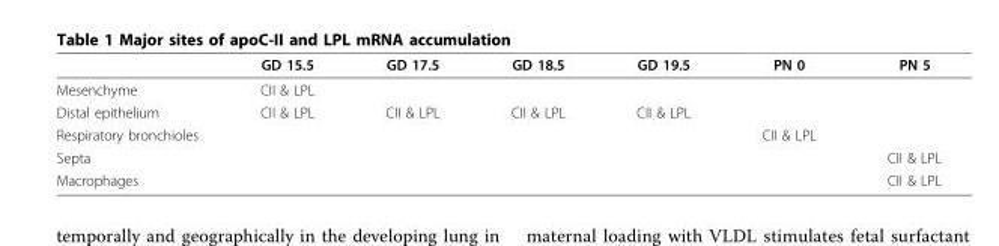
<table><thead><tr><td></td><td>GD 15.5</td><td>GD 17.5</td><td>GD 18.5</td><td>GD 19.5</td><td>PN 0</td><td>PN 5</td></tr></thead><tbody><tr><td>Mesenchyme</td><td>CII &amp; LPL</td><td></td><td></td><td></td><td></td><td></td></tr><tr><td>Distal epithelium</td><td>CII &amp; LPL</td><td>CII &amp; LPL</td><td>CII &amp; LPL</td><td>CII &amp; LPL</td><td></td><td></td></tr><tr><td colspan="2">Respiratory bronchioles</td><td></td><td></td><td></td><td>CII &amp; LPL</td><td></td></tr><tr><td>Septa</td><td></td><td></td><td></td><td></td><td></td><td>CII &amp; LPL</td></tr><tr><td>Macrophages</td><td></td><td></td><td></td><td></td><td></td><td>CII &amp; LPL</td></tr></tbody></table>